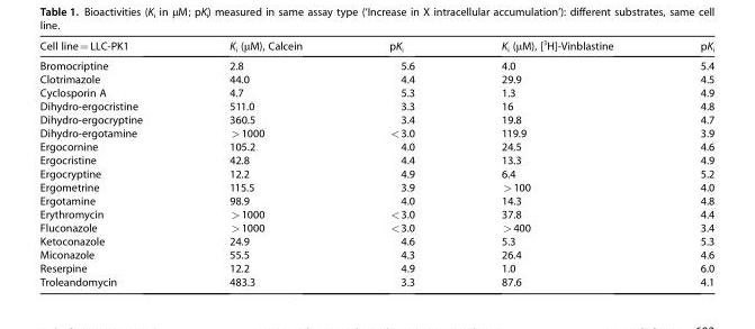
<table><thead><tr><td>Cell line=LLC-PK1</td><td>K<sub>i</sub> (µM), Calcein</td><td>pK<sub>i</sub></td><td>K<sub>i</sub> (µM), [<sup>3</sup>H]-Vinblastine</td><td>pK<sub>i</sub></td></tr></thead><tbody><tr><td>Bromocriptine</td><td>2.8</td><td>5.6</td><td>4.0</td><td>5.4</td></tr><tr><td>Clotrimazole</td><td>44.0</td><td>4.4</td><td>29.9</td><td>4.5</td></tr><tr><td>Cyclosporin A</td><td>4.7</td><td>5.3</td><td>1.3</td><td>4.9</td></tr><tr><td>Dihydro-ergocristine</td><td>511.0</td><td>3.3</td><td>16</td><td>4.8</td></tr><tr><td>Dihydro-ergocryptine</td><td>360.5</td><td>3.4</td><td>19.8</td><td>4.7</td></tr><tr><td>Dihydro-ergotamine</td><td>&gt;1000</td><td>&lt;3.0</td><td>119.9</td><td>3.9</td></tr><tr><td>Ergocornine</td><td>105.2</td><td>4.0</td><td>24.5</td><td>4.6</td></tr><tr><td>Ergocristine</td><td>42.8</td><td>4.4</td><td>13.3</td><td>4.9</td></tr><tr><td>Ergocryptine</td><td>12.2</td><td>4.9</td><td>6.4</td><td>5.2</td></tr><tr><td>Ergometrine</td><td>115.5</td><td>3.9</td><td>&gt;100</td><td>4.0</td></tr><tr><td>Ergotamine</td><td>98.9</td><td>4.0</td><td>14.3</td><td>4.8</td></tr><tr><td>Erythromycin</td><td>&gt;1000</td><td>&lt;3.0</td><td>37.8</td><td>4.4</td></tr><tr><td>Fluconazole</td><td>&gt;1000</td><td>&lt;3.0</td><td>&gt;400</td><td>3.4</td></tr><tr><td>Ketoconazole</td><td>24.9</td><td>4.6</td><td>5.3</td><td>5.3</td></tr><tr><td>Miconazole</td><td>55.5</td><td>4.3</td><td>26.4</td><td>4.6</td></tr><tr><td>Reserpine</td><td>12.2</td><td>4.9</td><td>1.0</td><td>6.0</td></tr><tr><td>Troleandomycin</td><td>483.3</td><td>3.3</td><td>87.6</td><td>4.1</td></tr></tbody></table>